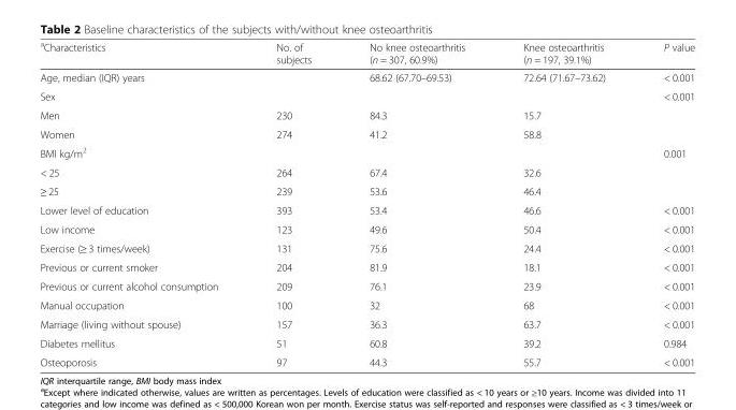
<table><thead><tr><td><sup>a</sup>Characteristics</td><td>No. of subjects</td><td>No knee osteoarthritis (n = 307, 60.9%)</td><td>Knee osteoarthritis (n = 197, 39.1%)</td><td>P value</td></tr></thead><tbody><tr><td>Age, median (IQR) years</td><td></td><td>68.62 (67.70–69.53)</td><td>72.64 (71.67–73.62)</td><td>&lt; 0.001</td></tr><tr><td>Sex</td><td></td><td></td><td></td><td>&lt; 0.001</td></tr><tr><td>Men</td><td>230</td><td>84.3</td><td>15.7</td><td></td></tr><tr><td>Women</td><td>274</td><td>41.2</td><td>58.8</td><td></td></tr><tr><td>BMI kg/m<sup>2</sup></td><td></td><td></td><td></td><td>0.001</td></tr><tr><td>&lt; 25</td><td>264</td><td>67.4</td><td>32.6</td><td></td></tr><tr><td>≥ 25</td><td>239</td><td>53.6</td><td>46.4</td><td></td></tr><tr><td>Lower level of education</td><td>393</td><td>53.4</td><td>46.6</td><td>&lt; 0.001</td></tr><tr><td>Low income</td><td>123</td><td>49.6</td><td>50.4</td><td>&lt; 0.001</td></tr><tr><td>Exercise (≥ 3 times/week)</td><td>131</td><td>75.6</td><td>24.4</td><td>&lt; 0.001</td></tr><tr><td>Previous or current smoker</td><td>204</td><td>81.9</td><td>18.1</td><td>&lt; 0.001</td></tr><tr><td>Previous or current alcohol consumption</td><td>209</td><td>76.1</td><td>23.9</td><td>&lt; 0.001</td></tr><tr><td>Manual occupation</td><td>100</td><td>32</td><td>68</td><td>&lt; 0.001</td></tr><tr><td>Marriage (living without spouse)</td><td>157</td><td>36.3</td><td>63.7</td><td>&lt; 0.001</td></tr><tr><td>Diabetes mellitus</td><td>51</td><td>60.8</td><td>39.2</td><td>0.984</td></tr><tr><td>Osteoporosis</td><td>97</td><td>44.3</td><td>55.7</td><td>&lt; 0.001</td></tr></tbody></table>